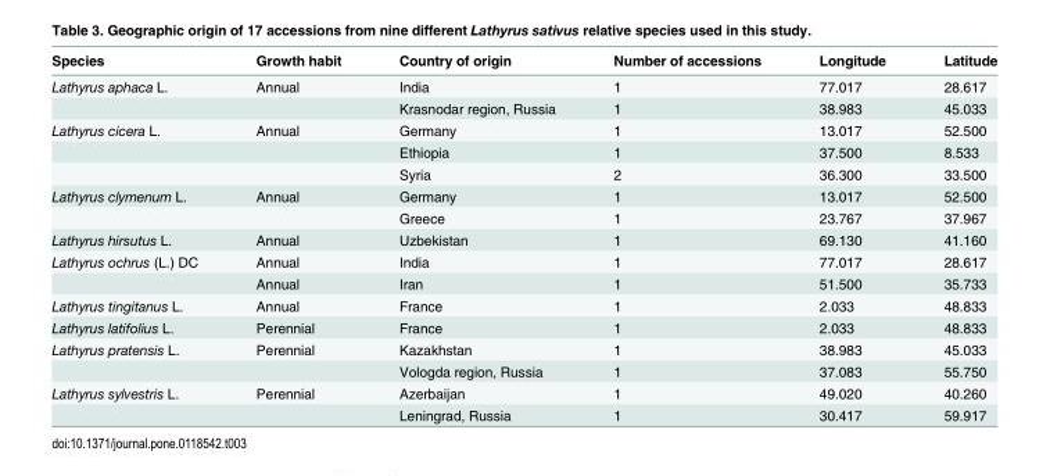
<table><thead><tr><td>Species</td><td>Growth habit</td><td>Country of origin</td><td>Number of accessions</td><td>Longitude</td><td>Latitude</td></tr></thead><tbody><tr><td rowspan="2">Lathyrus aphaca L.</td><td>Annual</td><td>India</td><td>1</td><td>77.017</td><td>28.617</td></tr><tr><td></td><td>Krasnodar region, Russia</td><td>1</td><td>38.983</td><td>45.033</td></tr><tr><td rowspan="3">Lathyrus cicera L.</td><td>Annual</td><td>Germany</td><td>1</td><td>13.017</td><td>52.500</td></tr><tr><td></td><td>Ethiopia</td><td>1</td><td>37.500</td><td>8.533</td></tr><tr><td></td><td>Syria</td><td>2</td><td>36.300</td><td>33.500</td></tr><tr><td rowspan="2">Lathyrus clymenum L.</td><td>Annual</td><td>Germany</td><td>1</td><td>13.017</td><td>52.500</td></tr><tr><td></td><td>Greece</td><td>1</td><td>23.767</td><td>37.967</td></tr><tr><td>Lathyrus hirsutus L.</td><td>Annual</td><td>Uzbekistan</td><td>1</td><td>69.130</td><td>41.160</td></tr><tr><td rowspan="2">Lathyrus ochrus (L.) DC</td><td>Annual</td><td>India</td><td>1</td><td>77.017</td><td>28.617</td></tr><tr><td>Annual</td><td>Iran</td><td>1</td><td>51.500</td><td>35.733</td></tr><tr><td>Lathyrus tingitanus L.</td><td>Annual</td><td>France</td><td>1</td><td>2.033</td><td>48.833</td></tr><tr><td>Lathyrus latifolius L.</td><td>Perennial</td><td>France</td><td>1</td><td>2.033</td><td>48.833</td></tr><tr><td rowspan="2">Lathyrus pratensis L.</td><td>Perennial</td><td>Kazakhstan</td><td>1</td><td>38.983</td><td>45.033</td></tr><tr><td></td><td>Vologda region, Russia</td><td>1</td><td>37.083</td><td>55.750</td></tr><tr><td rowspan="2">Lathyrus sylvestris L.</td><td>Perennial</td><td>Azerbaijan</td><td>1</td><td>49.020</td><td>40.260</td></tr><tr><td></td><td>Leningrad, Russia</td><td>1</td><td>30.417</td><td>59.917</td></tr></tbody></table>